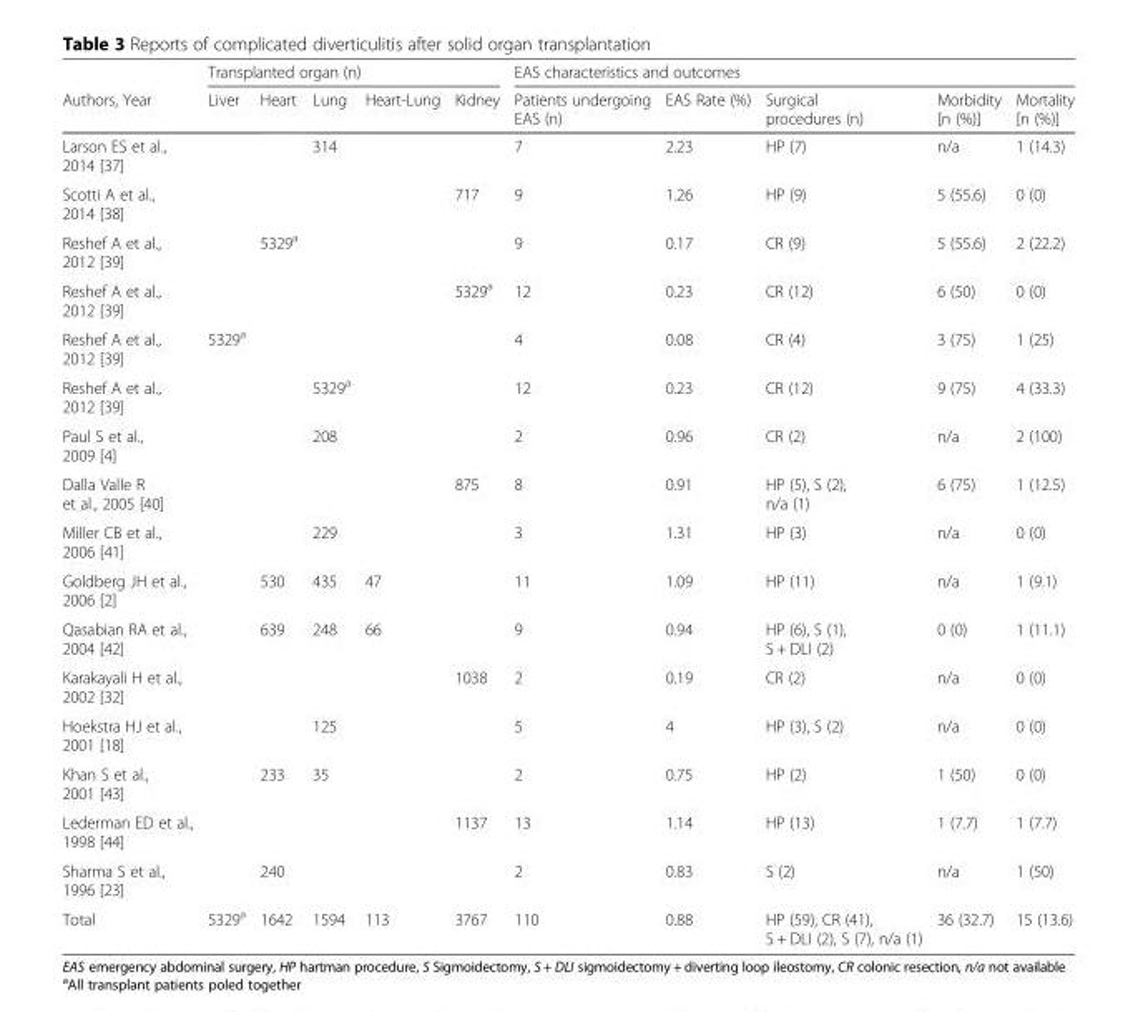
<table><thead><tr><td rowspan="2">Authors, Year</td><td colspan="5">Transplanted organ (n)</td><td colspan="5">EAS characteristics and outcomes</td></tr><tr><td>Liver</td><td>Heart</td><td>Lung</td><td>Heart-Lung</td><td>Kidney</td><td>Patients undergoing EAS (n)</td><td>EAS Rate (%)</td><td>Surgical procedures (n)</td><td>Morbidity [n (%)]</td><td>Mortality [n (%)]</td></tr></thead><tbody><tr><td>Larson ES et al., 2014 [37]</td><td></td><td></td><td>314</td><td></td><td></td><td>7</td><td>2.23</td><td>HP (7)</td><td>n/a</td><td>1 (14.3)</td></tr><tr><td>Scotti A et al., 2014 [38]</td><td></td><td></td><td></td><td></td><td>717</td><td>9</td><td>1.26</td><td>HP (9)</td><td>5 (55.6)</td><td>0 (0)</td></tr><tr><td>Reshef A et al., 2012 [39]</td><td></td><td>5329<sup>a</sup></td><td></td><td></td><td></td><td>9</td><td>0.17</td><td>CR (9)</td><td>5 (55.6)</td><td>2 (22.2)</td></tr><tr><td>Reshef A et al., 2012 [39]</td><td></td><td></td><td></td><td></td><td>5329<sup>a</sup></td><td>12</td><td>0.23</td><td>CR (12)</td><td>6 (50)</td><td>0 (0)</td></tr><tr><td>Reshef A et al., 2012 [39]</td><td>5329<sup>a</sup></td><td></td><td></td><td></td><td></td><td>4</td><td>0.08</td><td>CR (4)</td><td>3 (75)</td><td>1 (25)</td></tr><tr><td>Reshef A et al., 2012 [39]</td><td></td><td></td><td>5329<sup>a</sup></td><td></td><td></td><td>12</td><td>0.23</td><td>CR (12)</td><td>9 (75)</td><td>4 (33.3)</td></tr><tr><td>Paul S et al., 2009 [4]</td><td></td><td></td><td>208</td><td></td><td></td><td>2</td><td>0.96</td><td>CR (2)</td><td>n/a</td><td>2 (100)</td></tr><tr><td>Dalla Valle R et al., 2005 [40]</td><td></td><td></td><td></td><td></td><td>875</td><td>8</td><td>0.91</td><td>HP (5), S (2), n/a (1)</td><td>6 (75)</td><td>1 (12.5)</td></tr><tr><td>Miller CB et al., 2006 [41]</td><td></td><td></td><td>229</td><td></td><td></td><td>3</td><td>1.31</td><td>HP (3)</td><td>n/a</td><td>0 (0)</td></tr><tr><td>Goldberg JH et al., 2006 [2]</td><td></td><td>530</td><td>435</td><td>47</td><td></td><td>11</td><td>1.09</td><td>HP (11)</td><td>n/a</td><td>1 (9.1)</td></tr><tr><td>Qasabian RA et al., 2004 [42]</td><td></td><td>639</td><td>248</td><td>66</td><td></td><td>9</td><td>0.94</td><td>HP (6), S (1), S + DLI (2)</td><td>0 (0)</td><td>1 (11.1)</td></tr><tr><td>Karakayali H et al., 2002 [32]</td><td></td><td></td><td></td><td></td><td>1038</td><td>2</td><td>0.19</td><td>CR (2)</td><td>n/a</td><td>0 (0)</td></tr><tr><td>Hoekstra HJ et al., 2001 [18]</td><td></td><td></td><td>125</td><td></td><td></td><td>5</td><td>4</td><td>HP (3), S (2)</td><td>n/a</td><td>0 (0)</td></tr><tr><td>Khan S et al., 2001 [43]</td><td></td><td>233</td><td>35</td><td></td><td></td><td>2</td><td>0.75</td><td>HP (2)</td><td>1 (50)</td><td>0 (0)</td></tr><tr><td>Lederman ED et al., 1998 [44]</td><td></td><td></td><td></td><td></td><td>1137</td><td>13</td><td>1.14</td><td>HP (13)</td><td>1 (7.7)</td><td>1 (7.7)</td></tr><tr><td>Sharma S et al., 1996 [23]</td><td></td><td>240</td><td></td><td></td><td></td><td>2</td><td>0.83</td><td>S (2)</td><td>n/a</td><td>1 (50)</td></tr><tr><td>Total</td><td>5329<sup>a</sup></td><td>1642</td><td>1594</td><td>113</td><td>3767</td><td>110</td><td>0.88</td><td>HP (59), CR (41), S + DLI (2), S (7), n/a (1)</td><td>36 (32.7)</td><td>15 (13.6)</td></tr></tbody></table>